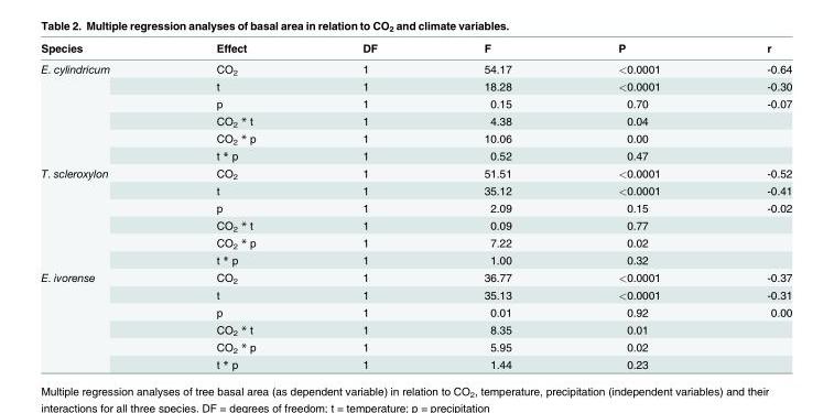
<table><thead><tr><td>Species</td><td>Effect</td><td>DF</td><td>F</td><td>P</td><td>r</td></tr></thead><tbody><tr><td rowspan="6">E. cylindricum</td><td>CO<sub>2</sub></td><td>1</td><td>54.17</td><td>&lt;0.0001</td><td>-0.64</td></tr><tr><td>t</td><td>1</td><td>18.28</td><td>&lt;0.0001</td><td>-0.30</td></tr><tr><td>p</td><td>1</td><td>0.15</td><td>0.70</td><td>-0.07</td></tr><tr><td>CO<sub>2</sub> * t</td><td>1</td><td>4.38</td><td>0.04</td><td></td></tr><tr><td>CO<sub>2</sub> * p</td><td>1</td><td>10.06</td><td>0.00</td><td></td></tr><tr><td>t * p</td><td>1</td><td>0.52</td><td>0.47</td><td></td></tr><tr><td rowspan="6">T. scleroxylon</td><td>CO<sub>2</sub></td><td>1</td><td>51.51</td><td>&lt;0.0001</td><td>-0.52</td></tr><tr><td>t</td><td>1</td><td>35.12</td><td>&lt;0.0001</td><td>-0.41</td></tr><tr><td>p</td><td>1</td><td>2.09</td><td>0.15</td><td>-0.02</td></tr><tr><td>CO<sub>2</sub> * t</td><td>1</td><td>0.09</td><td>0.77</td><td></td></tr><tr><td>CO<sub>2</sub> * p</td><td>1</td><td>7.22</td><td>0.02</td><td></td></tr><tr><td>t * p</td><td>1</td><td>1.00</td><td>0.32</td><td></td></tr><tr><td rowspan="6">E. ivorense</td><td>CO<sub>2</sub></td><td>1</td><td>36.77</td><td>&lt;0.0001</td><td>-0.37</td></tr><tr><td>t</td><td>1</td><td>35.13</td><td>&lt;0.0001</td><td>-0.31</td></tr><tr><td>p</td><td>1</td><td>0.01</td><td>0.92</td><td>0.00</td></tr><tr><td>CO<sub>2</sub> * t</td><td>1</td><td>8.35</td><td>0.01</td><td></td></tr><tr><td>CO<sub>2</sub> * p</td><td>1</td><td>5.95</td><td>0.02</td><td></td></tr><tr><td>t * p</td><td>1</td><td>1.44</td><td>0.23</td><td></td></tr></tbody></table>